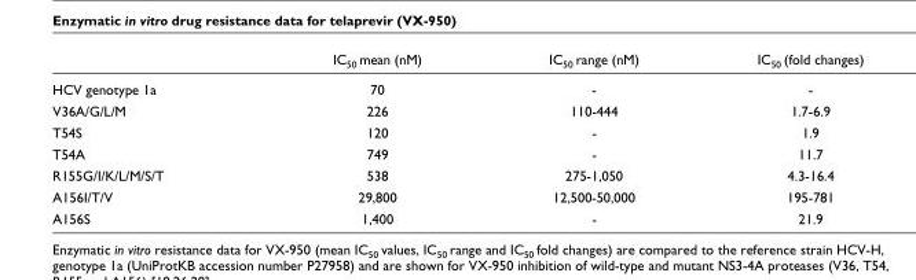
<table><thead><tr><td></td><td>IC<sub>50</sub> mean (nM)</td><td>IC<sub>50</sub> range (nM)</td><td>IC<sub>50</sub> (fold changes)</td></tr></thead><tbody><tr><td>HCV genotype 1a</td><td>70</td><td>-</td><td>-</td></tr><tr><td>V36A/G/L/M</td><td>226</td><td>110-444</td><td>1.7-6.9</td></tr><tr><td>T54S</td><td>120</td><td>-</td><td>1.9</td></tr><tr><td>T54A</td><td>749</td><td>-</td><td>11.7</td></tr><tr><td>R155G/I/K/L/M/S/T</td><td>538</td><td>275-1,050</td><td>4.3-16.4</td></tr><tr><td>A156I/T/V</td><td>29,800</td><td>12,500-50,000</td><td>195-781</td></tr><tr><td>A156S</td><td>1,400</td><td>-</td><td>21.9</td></tr></tbody></table>